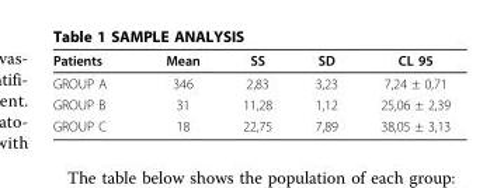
<table><thead><tr><td>Patients</td><td>Mean</td><td>SS</td><td>SD</td><td>CL 95</td></tr></thead><tbody><tr><td>GROUP A</td><td>346</td><td>2,83</td><td>3,23</td><td>7,24 ± 0,71</td></tr><tr><td>GROUP B</td><td>31</td><td>11,28</td><td>1,12</td><td>25,06 ± 2,39</td></tr><tr><td>GROUP C</td><td>18</td><td>22,75</td><td>7,89</td><td>38,05 ± 3,13</td></tr></tbody></table>